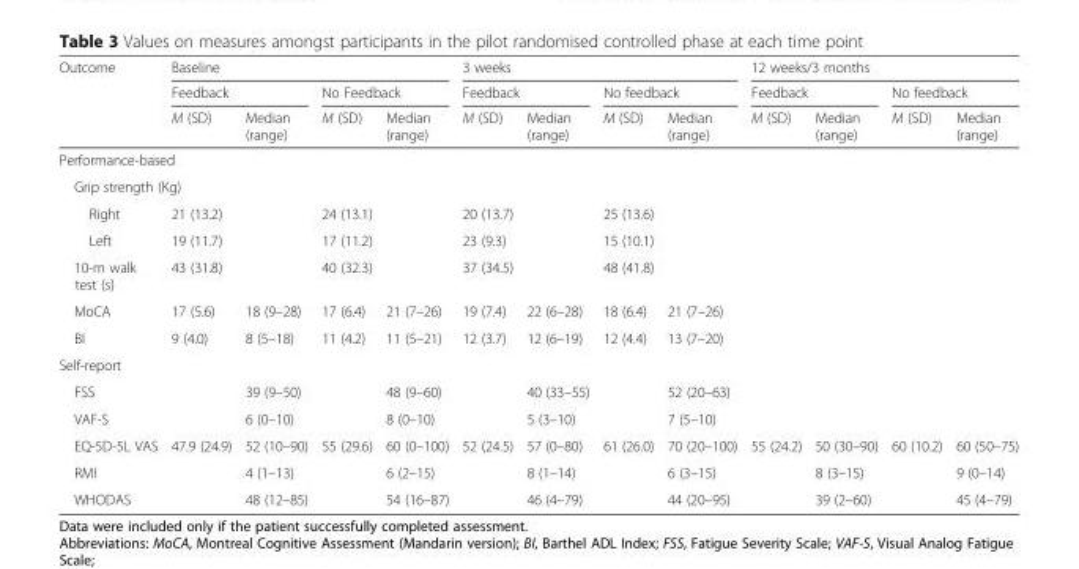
<table><thead><tr><td rowspan="3">Outcome</td><td colspan="4">Baseline</td><td colspan="4">3 weeks</td><td colspan="4">12 weeks/3 months</td></tr><tr><td colspan="2">Feedback</td><td colspan="2">No Feedback</td><td colspan="2">Feedback</td><td colspan="2">No feedback</td><td colspan="2">Feedback</td><td colspan="2">No feedback</td></tr><tr><td>M (SD)</td><td>Median (range)</td><td>M (SD)</td><td>Median (range)</td><td>M (SD)</td><td>Median (range)</td><td>M (SD)</td><td>Median (range)</td><td>M (SD)</td><td>Median (range)</td><td>M (SD)</td><td>Median (range)</td></tr></thead><tbody><tr><td colspan="13">Performance-based</td></tr><tr><td colspan="13">Grip strength (Kg)</td></tr><tr><td>Right</td><td>21 (13.2)</td><td></td><td>24 (13.1)</td><td></td><td>20 (13.7)</td><td></td><td>25 (13.6)</td><td></td><td></td><td></td><td></td><td></td></tr><tr><td>Left</td><td>19 (11.7)</td><td></td><td>17 (11.2)</td><td></td><td>23 (9.3)</td><td></td><td>15 (10.1)</td><td></td><td></td><td></td><td></td><td></td></tr><tr><td>10-m walk test (s)</td><td>43 (31.8)</td><td></td><td>40 (32.3)</td><td></td><td>37 (34.5)</td><td></td><td>48 (41.8)</td><td></td><td></td><td></td><td></td><td></td></tr><tr><td>MoCA</td><td>17 (5.6)</td><td>18 (9–28)</td><td>17 (6.4)</td><td>21 (7–26)</td><td>19 (7.4)</td><td>22 (6–28)</td><td>18 (6.4)</td><td>21 (7–26)</td><td></td><td></td><td></td><td></td></tr><tr><td>BI</td><td>9 (4.0)</td><td>8 (5–18)</td><td>11 (4.2)</td><td>11 (5–21)</td><td>12 (3.7)</td><td>12 (6–19)</td><td>12 (4.4)</td><td>13 (7–20)</td><td></td><td></td><td></td><td></td></tr><tr><td colspan="13">Self-report</td></tr><tr><td>FSS</td><td></td><td>39 (9–50)</td><td></td><td>48 (9–60)</td><td></td><td>40 (33–55)</td><td></td><td>52 (20–63)</td><td></td><td></td><td></td><td></td></tr><tr><td>VAF-S</td><td></td><td>6 (0–10)</td><td></td><td>8 (0–10)</td><td></td><td>5 (3–10)</td><td></td><td>7 (5–10)</td><td></td><td></td><td></td><td></td></tr><tr><td>EQ-5D-5L VAS</td><td>47.9 (24.9)</td><td>52 (10–90)</td><td>55 (29.6)</td><td>60 (0–100)</td><td>52 (24.5)</td><td>57 (0–80)</td><td>61 (26.0)</td><td>70 (20–100)</td><td>55 (24.2)</td><td>50 (30–90)</td><td>60 (10.2)</td><td>60 (50–75)</td></tr><tr><td>RMI</td><td></td><td>4 (1–13)</td><td></td><td>6 (2–15)</td><td></td><td>8 (1–14)</td><td></td><td>6 (3–15)</td><td></td><td>8 (3–15)</td><td></td><td>9 (0–14)</td></tr><tr><td>WHODAS</td><td></td><td>48 (12–85)</td><td></td><td>54 (16–87)</td><td></td><td>46 (4–79)</td><td></td><td>44 (20–95)</td><td></td><td>39 (2–60)</td><td></td><td>45 (4–79)</td></tr></tbody></table>